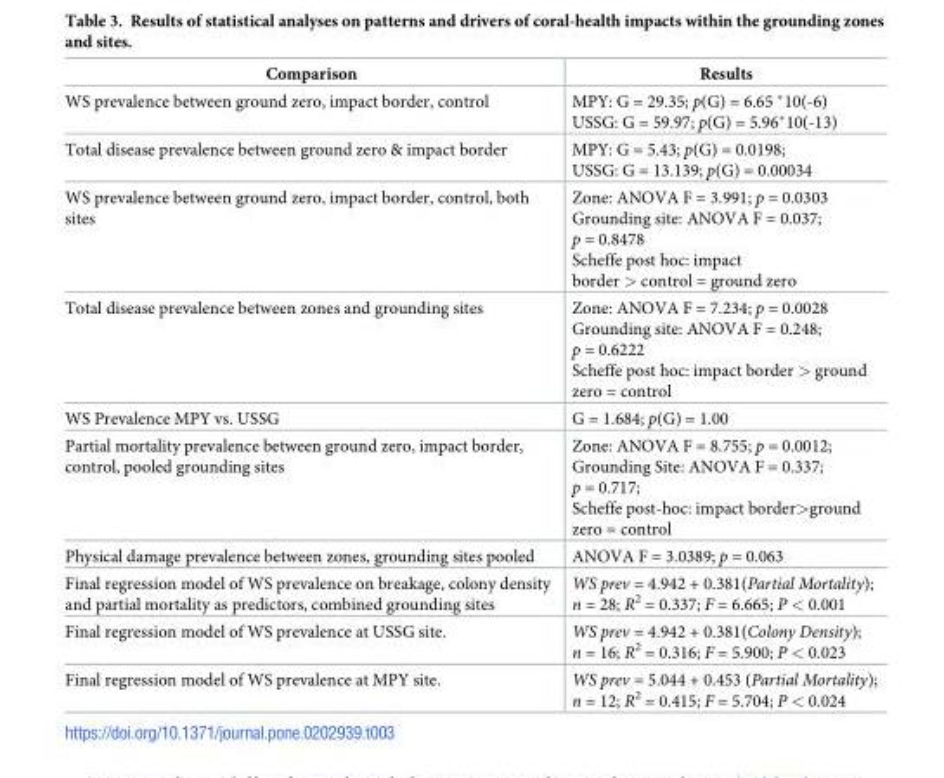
<table><thead><tr><td>Comparison</td><td>Results</td></tr></thead><tbody><tr><td>WS prevalence between ground zero, impact border, control</td><td>MPY: G = 29.35; p(G) = 6.65 *10(-6) USSG: G = 59.97; p(G) = 5.96*10(-13)</td></tr><tr><td>Total disease prevalence between ground zero &amp; impact border</td><td>MPY: G = 5.43; p(G) = 0.0198; USSG: G = 13.139; p(G) = 0.00034</td></tr><tr><td>WS prevalence between ground zero, impact border, control, both sites</td><td>Zone: ANOVA F = 3.991; p = 0.0303 Grounding site: ANOVA F = 0.037; p = 0.8478 Scheffe post hoc: impact border &gt; control = ground zero</td></tr><tr><td>Total disease prevalence between zones and grounding sites</td><td>Zone: ANOVA F = 7.234; p = 0.0028 Grounding site: ANOVA F = 0.248; p = 0.6222 Scheffe post hoc: impact border &gt; ground zero = control</td></tr><tr><td>WS Prevalence MPY vs. USSG</td><td>G = 1.684; p(G) = 1.00</td></tr><tr><td>Partial mortality prevalence between ground zero, impact border, control, pooled grounding sites</td><td>Zone: ANOVA F = 8.755; p = 0.0012; Grounding Site: ANOVA F = 0.337; p = 0.717; Scheffe post-hoc: impact border&gt;ground zero = control</td></tr><tr><td>Physical damage prevalence between zones, grounding sites pooled</td><td>ANOVA F = 3.0389; p = 0.063</td></tr><tr><td>Final regression model of WS prevalence on breakage, colony density and partial mortality as predictors, combined grounding sites</td><td>WS prev = 4.942 + 0.381(Partial Mortality); n = 28; R<sup>2</sup> = 0.337; F = 6.665; P &lt; 0.001</td></tr><tr><td>Final regression model of WS prevalence at USSG site.</td><td>WS prev = 4.942 + 0.381(Colony Density); n = 16; R<sup>2</sup> = 0.316; F = 5.900; P &lt; 0.023</td></tr><tr><td>Final regression model of WS prevalence at MPY site.</td><td>WS prev = 5.044 + 0.453 (Partial Mortality); n = 12; R<sup>2</sup> = 0.415; F = 5.704; P &lt; 0.024</td></tr></tbody></table>